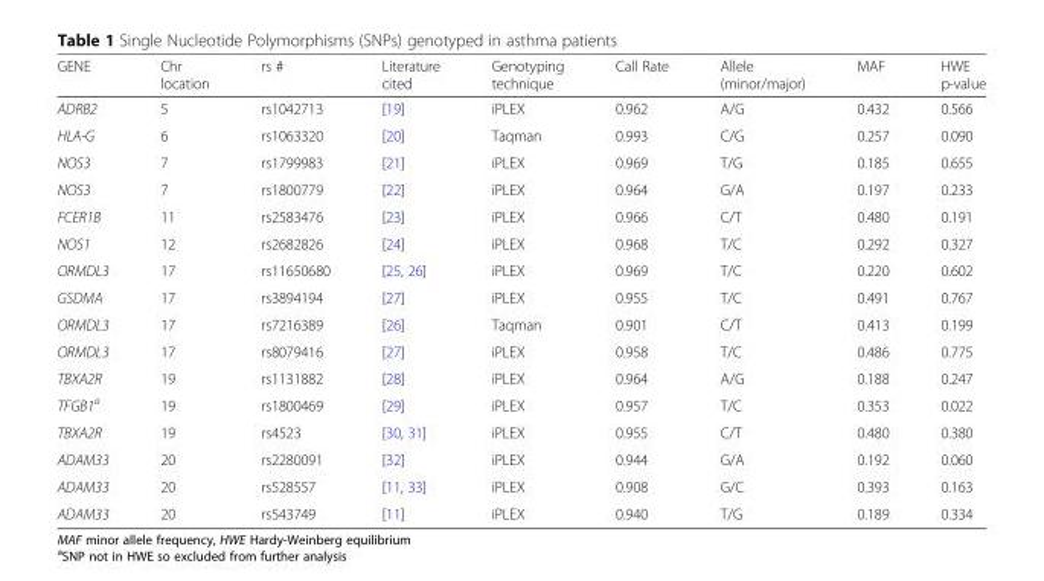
<table><thead><tr><td>GENE</td><td>Chr location</td><td>rs #</td><td>Literature cited</td><td>Genotyping technique</td><td>Call Rate</td><td>Allele (minor/major)</td><td>MAF</td><td>HWE p-value</td></tr></thead><tbody><tr><td>ADRB2</td><td>5</td><td>rs1042713</td><td>[19]</td><td>iPLEX</td><td>0.962</td><td>A/G</td><td>0.432</td><td>0.566</td></tr><tr><td>HLA-G</td><td>6</td><td>rs1063320</td><td>[20]</td><td>Taqman</td><td>0.993</td><td>C/G</td><td>0.257</td><td>0.090</td></tr><tr><td>NOS3</td><td>7</td><td>rs1799983</td><td>[21]</td><td>iPLEX</td><td>0.969</td><td>T/G</td><td>0.185</td><td>0.655</td></tr><tr><td>NOS3</td><td>7</td><td>rs1800779</td><td>[22]</td><td>iPLEX</td><td>0.964</td><td>G/A</td><td>0.197</td><td>0.233</td></tr><tr><td>FCER1B</td><td>11</td><td>rs2583476</td><td>[23]</td><td>iPLEX</td><td>0.966</td><td>C/T</td><td>0.480</td><td>0.191</td></tr><tr><td>NOS1</td><td>12</td><td>rs2682826</td><td>[24]</td><td>iPLEX</td><td>0.968</td><td>T/C</td><td>0.292</td><td>0.327</td></tr><tr><td>ORMDL3</td><td>17</td><td>rs11650680</td><td>[25, 26]</td><td>iPLEX</td><td>0.969</td><td>T/C</td><td>0.220</td><td>0.602</td></tr><tr><td>GSDMA</td><td>17</td><td>rs3894194</td><td>[27]</td><td>iPLEX</td><td>0.955</td><td>T/C</td><td>0.491</td><td>0.767</td></tr><tr><td>ORMDL3</td><td>17</td><td>rs7216389</td><td>[26]</td><td>Taqman</td><td>0.901</td><td>C/T</td><td>0.413</td><td>0.199</td></tr><tr><td>ORMDL3</td><td>17</td><td>rs8079416</td><td>[27]</td><td>iPLEX</td><td>0.958</td><td>T/C</td><td>0.486</td><td>0.775</td></tr><tr><td>TBXA2R</td><td>19</td><td>rs1131882</td><td>[28]</td><td>iPLEX</td><td>0.964</td><td>A/G</td><td>0.188</td><td>0.247</td></tr><tr><td>TFGB1<sup>a</sup></td><td>19</td><td>rs1800469</td><td>[29]</td><td>iPLEX</td><td>0.957</td><td>T/C</td><td>0.353</td><td>0.022</td></tr><tr><td>TBXA2R</td><td>19</td><td>rs4523</td><td>[30, 31]</td><td>iPLEX</td><td>0.955</td><td>C/T</td><td>0.480</td><td>0.380</td></tr><tr><td>ADAM33</td><td>20</td><td>rs2280091</td><td>[32]</td><td>iPLEX</td><td>0.944</td><td>G/A</td><td>0.192</td><td>0.060</td></tr><tr><td>ADAM33</td><td>20</td><td>rs528557</td><td>[11, 33]</td><td>iPLEX</td><td>0.908</td><td>G/C</td><td>0.393</td><td>0.163</td></tr><tr><td>ADAM33</td><td>20</td><td>rs543749</td><td>[11]</td><td>iPLEX</td><td>0.940</td><td>T/G</td><td>0.189</td><td>0.334</td></tr></tbody></table>